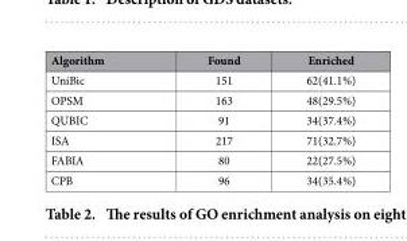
<table><thead><tr><td>Algorithm</td><td>Found</td><td>Enriched</td></tr></thead><tbody><tr><td>UniBic</td><td>151</td><td>62(41.1%)</td></tr><tr><td>OPSM</td><td>163</td><td>48(29.5%)</td></tr><tr><td>QUBIC</td><td>91</td><td>34(37.4%)</td></tr><tr><td>ISA</td><td>217</td><td>71(32.7%)</td></tr><tr><td>FABIA</td><td>80</td><td>22(27.5%)</td></tr><tr><td>CPB</td><td>96</td><td>34(35.4%)</td></tr></tbody></table>